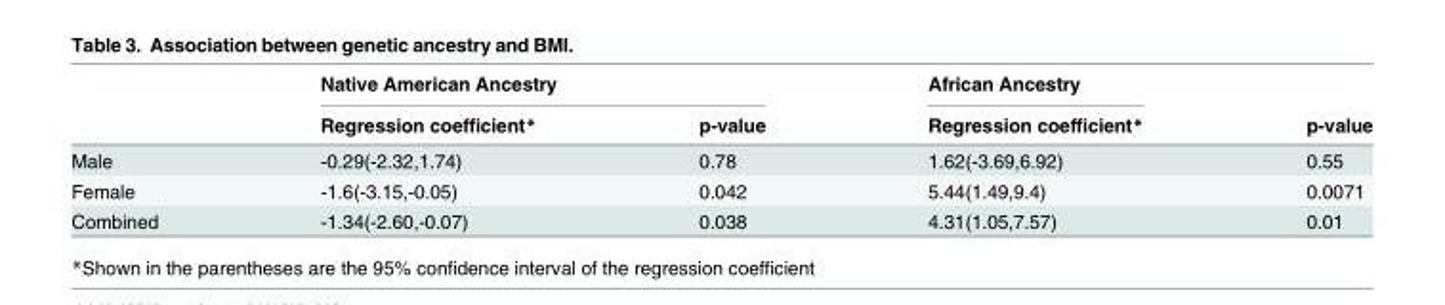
<table><thead><tr><td rowspan="2"></td><td colspan="2">Native American Ancestry</td><td rowspan="2">African Ancestry Regression coefficient*</td><td rowspan="2">p-value</td></tr><tr><td>Regression coefficient*</td><td>p-value</td></tr></thead><tbody><tr><td>Male</td><td>-0.29(-2.32,1.74)</td><td>0.78</td><td>1.62(-3.69,6.92)</td><td>0.55</td></tr><tr><td>Female</td><td>-1.6(-3.15,-0.05)</td><td>0.042</td><td>5.44(1.49,9.4)</td><td>0.0071</td></tr><tr><td>Combined</td><td>-1.34(-2.60,-0.07)</td><td>0.038</td><td>4.31(1.05,7.57)</td><td>0.01</td></tr></tbody></table>